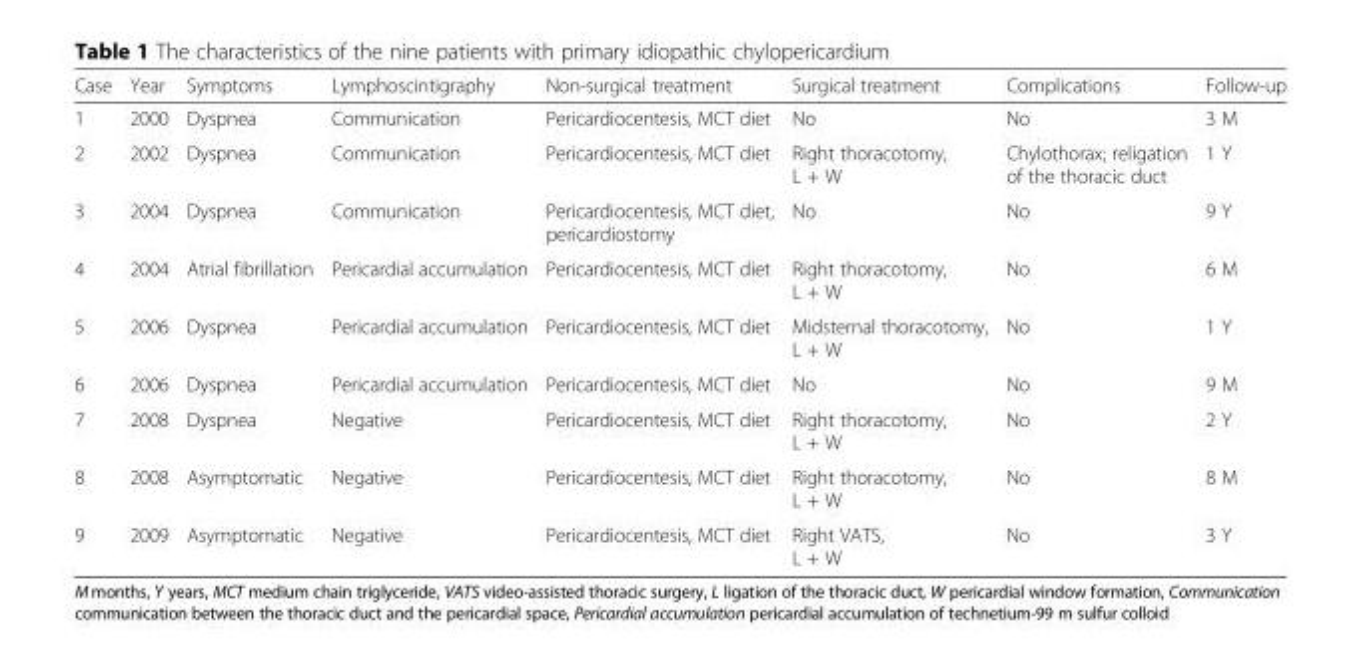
<table><thead><tr><td>Case</td><td>Year</td><td>Symptoms</td><td>Lymphoscintigraphy</td><td>Non-surgical treatment</td><td>Surgical treatment</td><td>Complications</td><td>Follow-up</td></tr></thead><tbody><tr><td>1</td><td>2000</td><td>Dyspnea</td><td>Communication</td><td>Pericardiocentesis, MCT diet</td><td>No</td><td>No</td><td>3 M</td></tr><tr><td>2</td><td>2002</td><td>Dyspnea</td><td>Communication</td><td>Pericardiocentesis, MCT diet</td><td>Right thoracotomy, L + W</td><td>Chylothorax; religation of the thoracic duct</td><td>1 Y</td></tr><tr><td>3</td><td>2004</td><td>Dyspnea</td><td>Communication</td><td>Pericardiocentesis, MCT diet, pericardiostomy</td><td>No</td><td>No</td><td>9 Y</td></tr><tr><td>4</td><td>2004</td><td>Atrial fibrillation</td><td>Pericardial accumulation</td><td>Pericardiocentesis, MCT diet</td><td>Right thoracotomy, L + W</td><td>No</td><td>6 M</td></tr><tr><td>5</td><td>2006</td><td>Dyspnea</td><td>Pericardial accumulation</td><td>Pericardiocentesis, MCT diet</td><td>Midsternal thoracotomy, L + W</td><td>No</td><td>1 Y</td></tr><tr><td>6</td><td>2006</td><td>Dyspnea</td><td>Pericardial accumulation</td><td>Pericardiocentesis, MCT diet</td><td>No</td><td>No</td><td>9 M</td></tr><tr><td>7</td><td>2008</td><td>Dyspnea</td><td>Negative</td><td>Pericardiocentesis, MCT diet</td><td>Right thoracotomy, L + W</td><td>No</td><td>2 Y</td></tr><tr><td>8</td><td>2008</td><td>Asymptomatic</td><td>Negative</td><td>Pericardiocentesis, MCT diet</td><td>Right thoracotomy, L + W</td><td>No</td><td>8 M</td></tr><tr><td>9</td><td>2009</td><td>Asymptomatic</td><td>Negative</td><td>Pericardiocentesis, MCT diet</td><td>Right VATS, L + W</td><td>No</td><td>3 Y</td></tr></tbody></table>